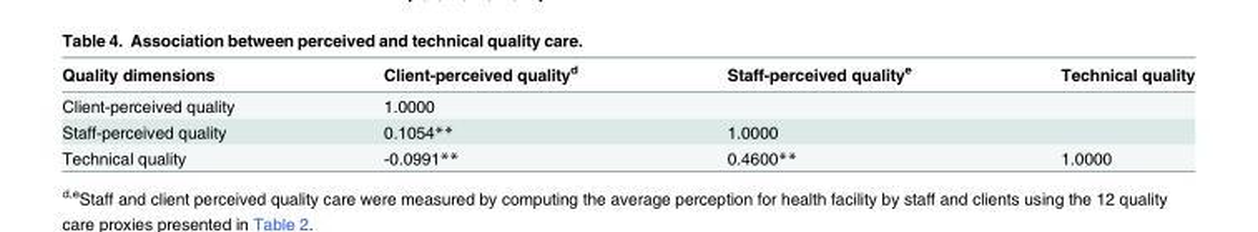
<table><thead><tr><td>Quality dimensions</td><td>Client-perceived quality<sup>d</sup></td><td>Staff-perceived quality<sup>e</sup></td><td>Technical quality</td></tr></thead><tbody><tr><td>Client-perceived quality</td><td>1.0000</td><td></td><td></td></tr><tr><td>Staff-perceived quality</td><td>0.1054**</td><td>1.0000</td><td></td></tr><tr><td>Technical quality</td><td>-0.0991**</td><td>0.4600**</td><td>1.0000</td></tr></tbody></table>